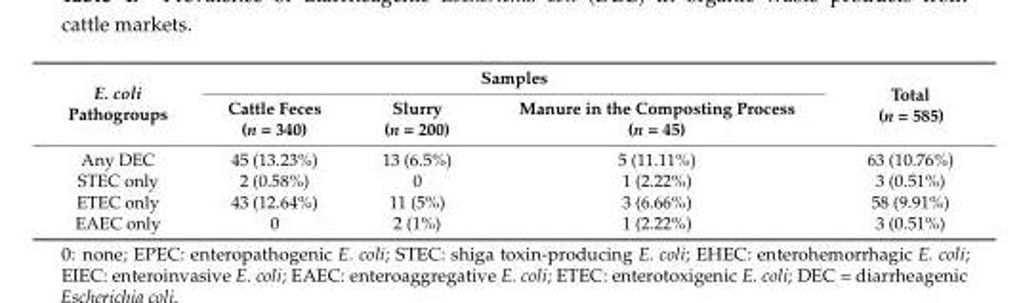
<table><thead><tr><td rowspan="2">E. coli Pathogroups</td><td colspan="3">Samples</td><td rowspan="2">Total (n = 585)</td></tr><tr><td>Cattle Feces (n = 340)</td><td>Slurry (n = 200)</td><td>Manure in the Composting Process (n = 45)</td></tr></thead><tbody><tr><td>Any DEC</td><td>45 (13.23%)</td><td>13 (6.5%)</td><td>5 (11.11%)</td><td>63 (10.76%)</td></tr><tr><td>STEC only</td><td>2 (0.58%)</td><td>0</td><td>1 (2.22%)</td><td>3 (0.51%)</td></tr><tr><td>ETEC only</td><td>43 (12.64%)</td><td>11 (5%)</td><td>3 (6.66%)</td><td>58 (9.91%)</td></tr><tr><td>EAEC only</td><td>0</td><td>2 (1%)</td><td>1 (2.22%)</td><td>3 (0.51%)</td></tr></tbody></table>